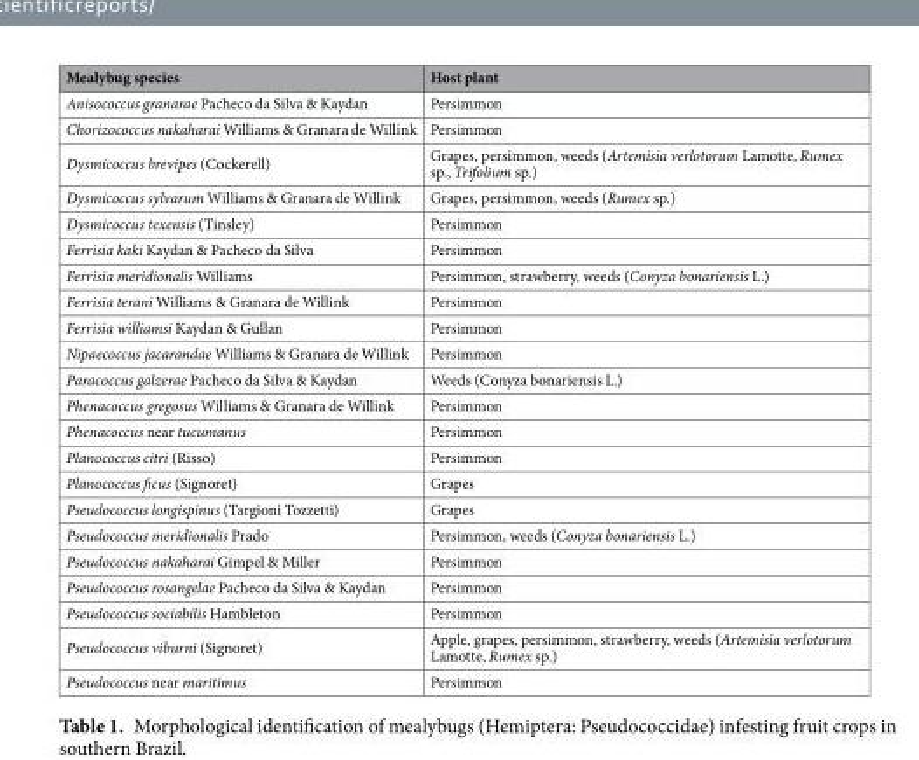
<table><thead><tr><td>Mealybug species</td><td>Host plant</td></tr></thead><tbody><tr><td>Anisococcus granarae Pacheco da Silva &amp; Kaydan</td><td>Persimmon</td></tr><tr><td>Chorizococcus nakaharai Williams &amp; Granara de Willink</td><td>Persimmon</td></tr><tr><td>Dysmicoccus brevipes (Cockerell)</td><td>Grapes, persimmon, weeds (Artemisia verlotorum Lamotte, Rumex sp., Trifolium sp.)</td></tr><tr><td>Dysmicoccus sylvarum Williams &amp; Granara de Willink</td><td>Grapes, persimmon, weeds (Rumex sp.)</td></tr><tr><td>Dysmicoccus texensis (Tinsley)</td><td>Persimmon</td></tr><tr><td>Ferrisia kaki Kaydan &amp; Pacheco da Silva</td><td>Persimmon</td></tr><tr><td>Ferrisia meridionalis Williams</td><td>Persimmon, strawberry, weeds (Conyza bonariensis L.)</td></tr><tr><td>Ferrisia terani Williams &amp; Granara de Willink</td><td>Persimmon</td></tr><tr><td>Ferrisia williamsi Kaydan &amp; Gullan</td><td>Persimmon</td></tr><tr><td>Nipaecoccus jacarandae Williams &amp; Granara de Willink</td><td>Persimmon</td></tr><tr><td>Paracoccus galzerae Pacheco da Silva &amp; Kaydan</td><td>Weeds (Conyza bonariensis L.)</td></tr><tr><td>Phenacoccus gregosus Williams &amp; Granara de Willink</td><td>Persimmon</td></tr><tr><td>Phenacoccus near tucumanus</td><td>Persimmon</td></tr><tr><td>Planococcus citri (Risso)</td><td>Persimmon</td></tr><tr><td>Planococcus ficus (Signoret)</td><td>Grapes</td></tr><tr><td>Pseudococcus longispinus (Targioni Tozzetti)</td><td>Grapes</td></tr><tr><td>Pseudococcus meridionalis Prado</td><td>Persimmon, weeds (Conyza bonariensis L.)</td></tr><tr><td>Pseudococcus nakaharai Gimpel &amp; Miller</td><td>Persimmon</td></tr><tr><td>Pseudococcus rosangelae Pacheco da Silva &amp; Kaydan</td><td>Persimmon</td></tr><tr><td>Pseudococcus sociabilis Hambleton</td><td>Persimmon</td></tr><tr><td>Pseudococcus viburni (Signoret)</td><td>Apple, grapes, persimmon, strawberry, weeds (Artemisia verlotorum Lamotte, Rumex sp.)</td></tr><tr><td>Pseudococcus near maritimus</td><td>Persimmon</td></tr></tbody></table>